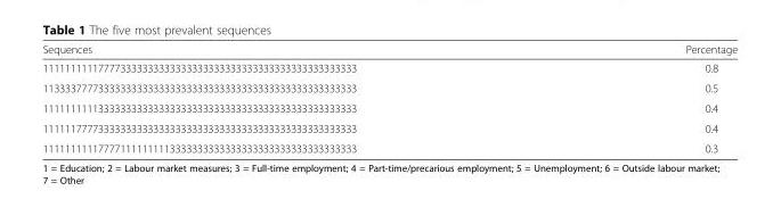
<table><thead><tr><td>Sequences</td><td>Percentage</td></tr></thead><tbody><tr><td>111111111177773333333333333333333333333333333333333333333</td><td>0.8</td></tr><tr><td>113333777733333333333333333333333333333333333333333333333</td><td>0.5</td></tr><tr><td>111111111133333333333333333333333333333333333333333333333</td><td>0.4</td></tr><tr><td>111111777733333333333333333333333333333333333333333333333</td><td>0.4</td></tr><tr><td>111111111177771111111113333333333333333333333333333333333</td><td>0.3</td></tr></tbody></table>